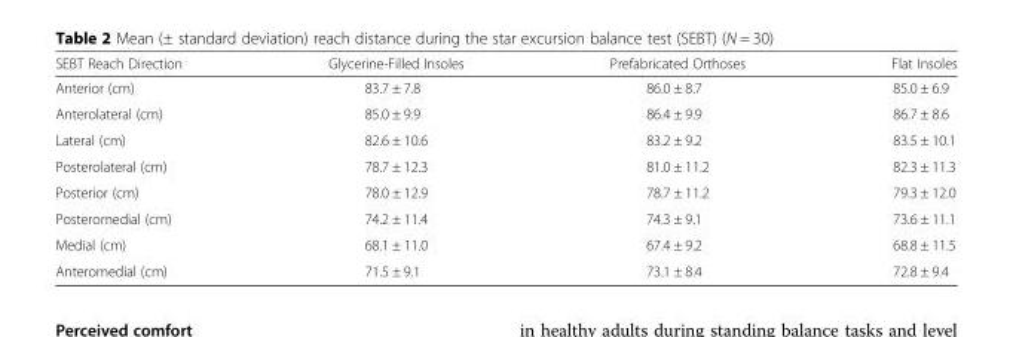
<table><thead><tr><td>SEBT Reach Direction</td><td>Glycerine-Filled Insoles</td><td>Prefabricated Orthoses</td><td>Flat Insoles</td></tr></thead><tbody><tr><td>Anterior (cm)</td><td>83.7 ± 7.8</td><td>86.0 ± 8.7</td><td>85.0 ± 6.9</td></tr><tr><td>Anterolateral (cm)</td><td>85.0 ± 9.9</td><td>86.4 ± 9.9</td><td>86.7 ± 8.6</td></tr><tr><td>Lateral (cm)</td><td>82.6 ± 10.6</td><td>83.2 ± 9.2</td><td>83.5 ± 10.1</td></tr><tr><td>Posterolateral (cm)</td><td>78.7 ± 12.3</td><td>81.0 ± 11.2</td><td>82.3 ± 11.3</td></tr><tr><td>Posterior (cm)</td><td>78.0 ± 12.9</td><td>78.7 ± 11.2</td><td>79.3 ± 12.0</td></tr><tr><td>Posteromedial (cm)</td><td>74.2 ± 11.4</td><td>74.3 ± 9.1</td><td>73.6 ± 11.1</td></tr><tr><td>Medial (cm)</td><td>68.1 ± 11.0</td><td>67.4 ± 9.2</td><td>68.8 ± 11.5</td></tr><tr><td>Anteromedial (cm)</td><td>71.5 ± 9.1</td><td>73.1 ± 8.4</td><td>72.8 ± 9.4</td></tr></tbody></table>